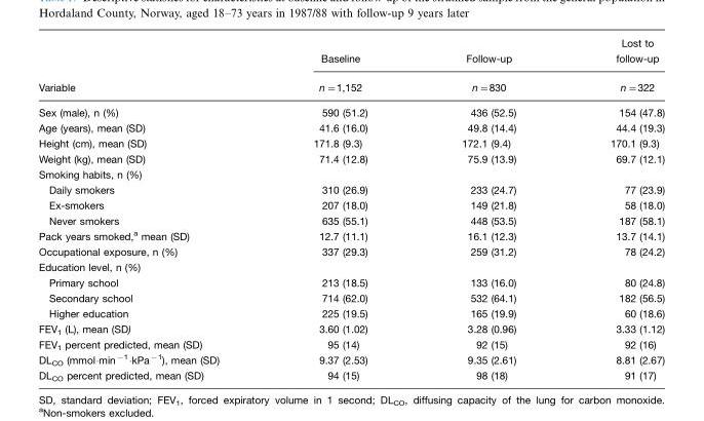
<table><thead><tr><td rowspan="2">Variable</td><td rowspan="2">Baseline n=1,152</td><td rowspan="2">Follow-up n=830</td><td rowspan="2">Lost to follow-up n=322</td></tr><tr></tr></thead><tbody><tr><td>Sex (male), n (%)</td><td>590 (51.2)</td><td>436 (52.5)</td><td>154 (47.8)</td></tr><tr><td>Age (years), mean (SD)</td><td>41.6 (16.0)</td><td>49.8 (14.4)</td><td>44.4 (19.3)</td></tr><tr><td>Height (cm), mean (SD)</td><td>171.8 (9.3)</td><td>172.1 (9.4)</td><td>170.1 (9.3)</td></tr><tr><td>Weight (kg), mean (SD)</td><td>71.4 (12.8)</td><td>75.9 (13.9)</td><td>69.7 (12.1)</td></tr><tr><td colspan="4">Smoking habits, n (%)</td></tr><tr><td>Daily smokers</td><td>310 (26.9)</td><td>233 (24.7)</td><td>77 (23.9)</td></tr><tr><td>Ex-smokers</td><td>207 (18.0)</td><td>149 (21.8)</td><td>58 (18.0)</td></tr><tr><td>Never smokers</td><td>635 (55.1)</td><td>448 (53.5)</td><td>187 (58.1)</td></tr><tr><td>Pack years smoked,<sup>a</sup> mean (SD)</td><td>12.7 (11.1)</td><td>16.1 (12.3)</td><td>13.7 (14.1)</td></tr><tr><td>Occupational exposure, n (%)</td><td>337 (29.3)</td><td>259 (31.2)</td><td>78 (24.2)</td></tr><tr><td colspan="4">Education level, n (%)</td></tr><tr><td>Primary school</td><td>213 (18.5)</td><td>133 (16.0)</td><td>80 (24.8)</td></tr><tr><td>Secondary school</td><td>714 (62.0)</td><td>532 (64.1)</td><td>182 (56.5)</td></tr><tr><td>Higher education</td><td>225 (19.5)</td><td>165 (19.9)</td><td>60 (18.6)</td></tr><tr><td>FEV<sub>1</sub> (L), mean (SD)</td><td>3.60 (1.02)</td><td>3.28 (0.96)</td><td>3.33 (1.12)</td></tr><tr><td>FEV<sub>1</sub> percent predicted, mean (SD)</td><td>95 (14)</td><td>92 (15)</td><td>92 (16)</td></tr><tr><td>DL<sub>CO</sub> (mmol·min<sup>−1</sup>·kPa<sup>−1</sup>), mean (SD)</td><td>9.37 (2.53)</td><td>9.35 (2.61)</td><td>8.81 (2.67)</td></tr><tr><td>DL<sub>CO</sub> percent predicted, mean (SD)</td><td>94 (15)</td><td>98 (18)</td><td>91 (17)</td></tr></tbody></table>